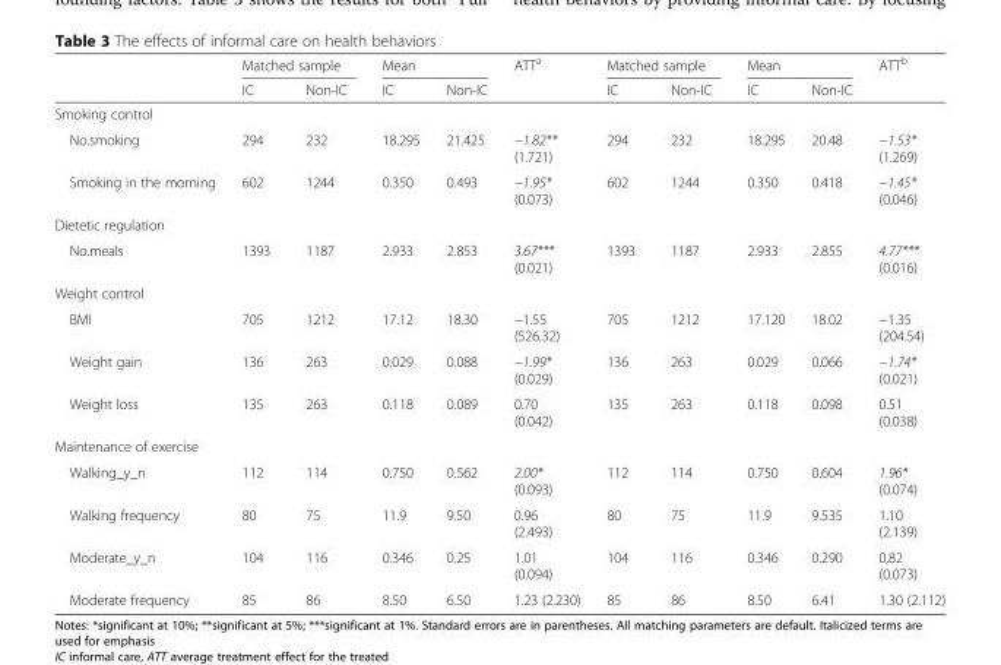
<table><thead><tr><td rowspan="2"></td><td colspan="2">Matched sample</td><td colspan="2">Mean</td><td rowspan="2">ATT<sup>a</sup></td><td colspan="2">Matched sample</td><td colspan="2">Mean</td><td rowspan="2">ATT<sup>b</sup></td></tr><tr><td>IC</td><td>Non-IC</td><td>IC</td><td>Non-IC</td><td>IC</td><td>Non-IC</td><td>IC</td><td>Non-IC</td></tr></thead><tbody><tr><td colspan="11">Smoking control</td></tr><tr><td>No.smoking</td><td>294</td><td>232</td><td>18.295</td><td>21.425</td><td>−1.82** (1.721)</td><td>294</td><td>232</td><td>18.295</td><td>20.48</td><td>−1.53* (1.269)</td></tr><tr><td>Smoking in the morning</td><td>602</td><td>1244</td><td>0.350</td><td>0.493</td><td>−1.95* (0.073)</td><td>602</td><td>1244</td><td>0.350</td><td>0.418</td><td>−1.45* (0.046)</td></tr><tr><td colspan="11">Dietetic regulation</td></tr><tr><td>No.meals</td><td>1393</td><td>1187</td><td>2.933</td><td>2.853</td><td>3.67*** (0.021)</td><td>1393</td><td>1187</td><td>2.933</td><td>2.855</td><td>4.77*** (0.016)</td></tr><tr><td colspan="11">Weight control</td></tr><tr><td>BMI</td><td>705</td><td>1212</td><td>17.12</td><td>18.30</td><td>−1.55 (526.32)</td><td>705</td><td>1212</td><td>17.120</td><td>18.02</td><td>−1.35 (204.54)</td></tr><tr><td>Weight gain</td><td>136</td><td>263</td><td>0.029</td><td>0.088</td><td>−1.99* (0.029)</td><td>136</td><td>263</td><td>0.029</td><td>0.066</td><td>−1.74* (0.021)</td></tr><tr><td>Weight loss</td><td>135</td><td>263</td><td>0.118</td><td>0.089</td><td>0.70 (0.042)</td><td>135</td><td>263</td><td>0.118</td><td>0.098</td><td>0.51 (0.038)</td></tr><tr><td colspan="11">Maintenance of exercise</td></tr><tr><td>Walking_y_n</td><td>112</td><td>114</td><td>0.750</td><td>0.562</td><td>2.00* (0.093)</td><td>112</td><td>114</td><td>0.750</td><td>0.604</td><td>1.96* (0.074)</td></tr><tr><td>Walking frequency</td><td>80</td><td>75</td><td>11.9</td><td>9.50</td><td>0.96 (2.493)</td><td>80</td><td>75</td><td>11.9</td><td>9.535</td><td>1.10 (2.139)</td></tr><tr><td>Moderate_y_n</td><td>104</td><td>116</td><td>0.346</td><td>0.25</td><td>1.01 (0.094)</td><td>104</td><td>116</td><td>0.346</td><td>0.290</td><td>0.82 (0.073)</td></tr><tr><td>Moderate frequency</td><td>85</td><td>86</td><td>8.50</td><td>6.50</td><td>1.23 (2.230)</td><td>85</td><td>86</td><td>8.50</td><td>6.41</td><td>1.30 (2.112)</td></tr></tbody></table>